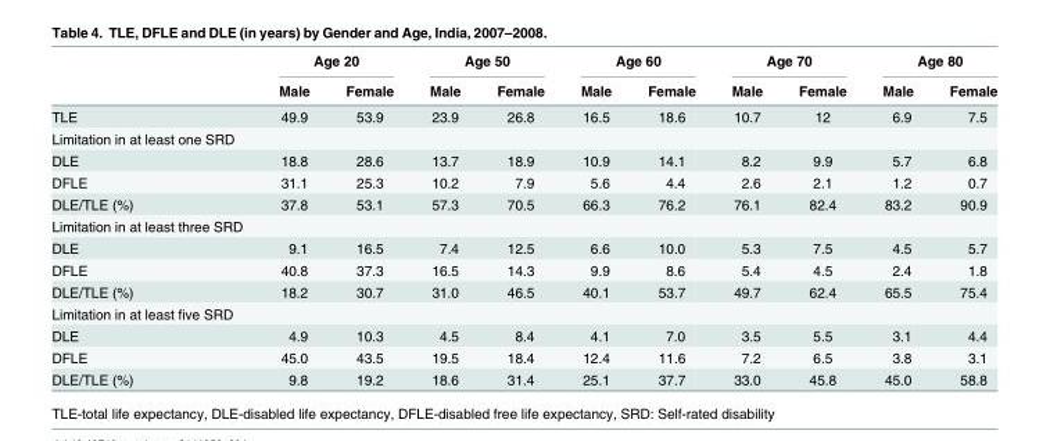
<table><thead><tr><td rowspan="2"></td><td colspan="2">Age 20</td><td colspan="2">Age 50</td><td colspan="2">Age 60</td><td colspan="2">Age 70</td><td colspan="2">Age 80</td></tr><tr><td>Male</td><td>Female</td><td>Male</td><td>Female</td><td>Male</td><td>Female</td><td>Male</td><td>Female</td><td>Male</td><td>Female</td></tr></thead><tbody><tr><td>TLE</td><td>49.9</td><td>53.9</td><td>23.9</td><td>26.8</td><td>16.5</td><td>18.6</td><td>10.7</td><td>12</td><td>6.9</td><td>7.5</td></tr><tr><td colspan="11">Limitation in at least one SRD</td></tr><tr><td>DLE</td><td>18.8</td><td>28.6</td><td>13.7</td><td>18.9</td><td>10.9</td><td>14.1</td><td>8.2</td><td>9.9</td><td>5.7</td><td>6.8</td></tr><tr><td>DFLE</td><td>31.1</td><td>25.3</td><td>10.2</td><td>7.9</td><td>5.6</td><td>4.4</td><td>2.6</td><td>2.1</td><td>1.2</td><td>0.7</td></tr><tr><td>DLE/TLE (%)</td><td>37.8</td><td>53.1</td><td>57.3</td><td>70.5</td><td>66.3</td><td>76.2</td><td>76.1</td><td>82.4</td><td>83.2</td><td>90.9</td></tr><tr><td colspan="11">Limitation in at least three SRD</td></tr><tr><td>DLE</td><td>9.1</td><td>16.5</td><td>7.4</td><td>12.5</td><td>6.6</td><td>10.0</td><td>5.3</td><td>7.5</td><td>4.5</td><td>5.7</td></tr><tr><td>DFLE</td><td>40.8</td><td>37.3</td><td>16.5</td><td>14.3</td><td>9.9</td><td>8.6</td><td>5.4</td><td>4.5</td><td>2.4</td><td>1.8</td></tr><tr><td>DLE/TLE (%)</td><td>18.2</td><td>30.7</td><td>31.0</td><td>46.5</td><td>40.1</td><td>53.7</td><td>49.7</td><td>62.4</td><td>65.5</td><td>75.4</td></tr><tr><td colspan="11">Limitation in at least five SRD</td></tr><tr><td>DLE</td><td>4.9</td><td>10.3</td><td>4.5</td><td>8.4</td><td>4.1</td><td>7.0</td><td>3.5</td><td>5.5</td><td>3.1</td><td>4.4</td></tr><tr><td>DFLE</td><td>45.0</td><td>43.5</td><td>19.5</td><td>18.4</td><td>12.4</td><td>11.6</td><td>7.2</td><td>6.5</td><td>3.8</td><td>3.1</td></tr><tr><td>DLE/TLE (%)</td><td>9.8</td><td>19.2</td><td>18.6</td><td>31.4</td><td>25.1</td><td>37.7</td><td>33.0</td><td>45.8</td><td>45.0</td><td>58.8</td></tr></tbody></table>